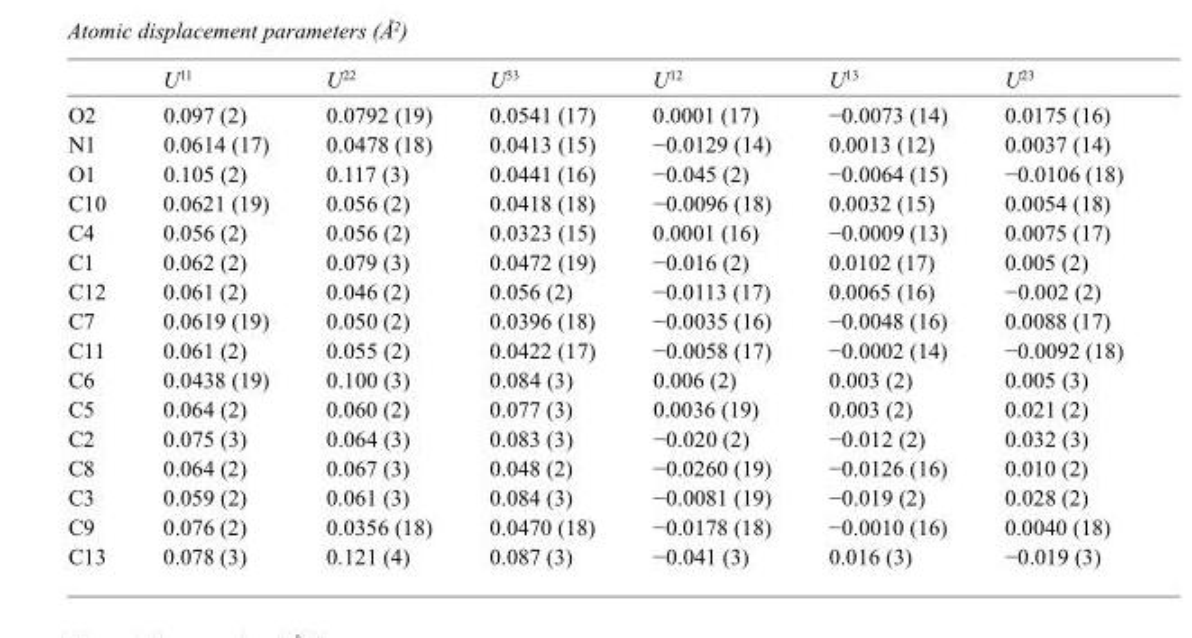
<table><thead><tr><td></td><td>U<sup>11</sup></td><td>U<sup>22</sup></td><td>U<sup>33</sup></td><td>U<sup>12</sup></td><td>U<sup>13</sup></td><td>U<sup>23</sup></td></tr></thead><tbody><tr><td>O2</td><td>0.097 (2)</td><td>0.0792 (19)</td><td>0.0541 (17)</td><td>0.0001 (17)</td><td>−0.0073 (14)</td><td>0.0175 (16)</td></tr><tr><td>N1</td><td>0.0614 (17)</td><td>0.0478 (18)</td><td>0.0413 (15)</td><td>−0.0129 (14)</td><td>0.0013 (12)</td><td>0.0037 (14)</td></tr><tr><td>O1</td><td>0.105 (2)</td><td>0.117 (3)</td><td>0.0441 (16)</td><td>−0.045 (2)</td><td>−0.0064 (15)</td><td>−0.0106 (18)</td></tr><tr><td>C10</td><td>0.0621 (19)</td><td>0.056 (2)</td><td>0.0418 (18)</td><td>−0.0096 (18)</td><td>0.0032 (15)</td><td>0.0054 (18)</td></tr><tr><td>C4</td><td>0.056 (2)</td><td>0.056 (2)</td><td>0.0323 (15)</td><td>0.0001 (16)</td><td>−0.0009 (13)</td><td>0.0075 (17)</td></tr><tr><td>C1</td><td>0.062 (2)</td><td>0.079 (3)</td><td>0.0472 (19)</td><td>−0.016 (2)</td><td>0.0102 (17)</td><td>0.005 (2)</td></tr><tr><td>C12</td><td>0.061 (2)</td><td>0.046 (2)</td><td>0.056 (2)</td><td>−0.0113 (17)</td><td>0.0065 (16)</td><td>−0.002 (2)</td></tr><tr><td>C7</td><td>0.0619 (19)</td><td>0.050 (2)</td><td>0.0396 (18)</td><td>−0.0035 (16)</td><td>−0.0048 (16)</td><td>0.0088 (17)</td></tr><tr><td>C11</td><td>0.061 (2)</td><td>0.055 (2)</td><td>0.0422 (17)</td><td>−0.0058 (17)</td><td>−0.0002 (14)</td><td>−0.0092 (18)</td></tr><tr><td>C6</td><td>0.0438 (19)</td><td>0.100 (3)</td><td>0.084 (3)</td><td>0.006 (2)</td><td>0.003 (2)</td><td>0.005 (3)</td></tr><tr><td>C5</td><td>0.064 (2)</td><td>0.060 (2)</td><td>0.077 (3)</td><td>0.0036 (19)</td><td>0.003 (2)</td><td>0.021 (2)</td></tr><tr><td>C2</td><td>0.075 (3)</td><td>0.064 (3)</td><td>0.083 (3)</td><td>−0.020 (2)</td><td>−0.012 (2)</td><td>0.032 (3)</td></tr><tr><td>C8</td><td>0.064 (2)</td><td>0.067 (3)</td><td>0.048 (2)</td><td>−0.0260 (19)</td><td>−0.0126 (16)</td><td>0.010 (2)</td></tr><tr><td>C3</td><td>0.059 (2)</td><td>0.061 (3)</td><td>0.084 (3)</td><td>−0.0081 (19)</td><td>−0.019 (2)</td><td>0.028 (2)</td></tr><tr><td>C9</td><td>0.076 (2)</td><td>0.0356 (18)</td><td>0.0470 (18)</td><td>−0.0178 (18)</td><td>−0.0010 (16)</td><td>0.0040 (18)</td></tr><tr><td>C13</td><td>0.078 (3)</td><td>0.121 (4)</td><td>0.087 (3)</td><td>−0.041 (3)</td><td>0.016 (3)</td><td>−0.019 (3)</td></tr></tbody></table>